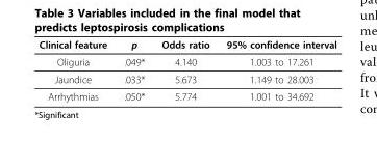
<table><thead><tr><td>Clinical feature</td><td>p</td><td>Odds ratio</td><td>95% confidence interval</td></tr></thead><tbody><tr><td>Oliguria</td><td>.049*</td><td>4.140</td><td>1.003 to 17.261</td></tr><tr><td>Jaundice</td><td>.033*</td><td>5.673</td><td>1.149 to 28.003</td></tr><tr><td>Arrhythmias</td><td>.050*</td><td>5.774</td><td>1.001 to 34.692</td></tr></tbody></table>